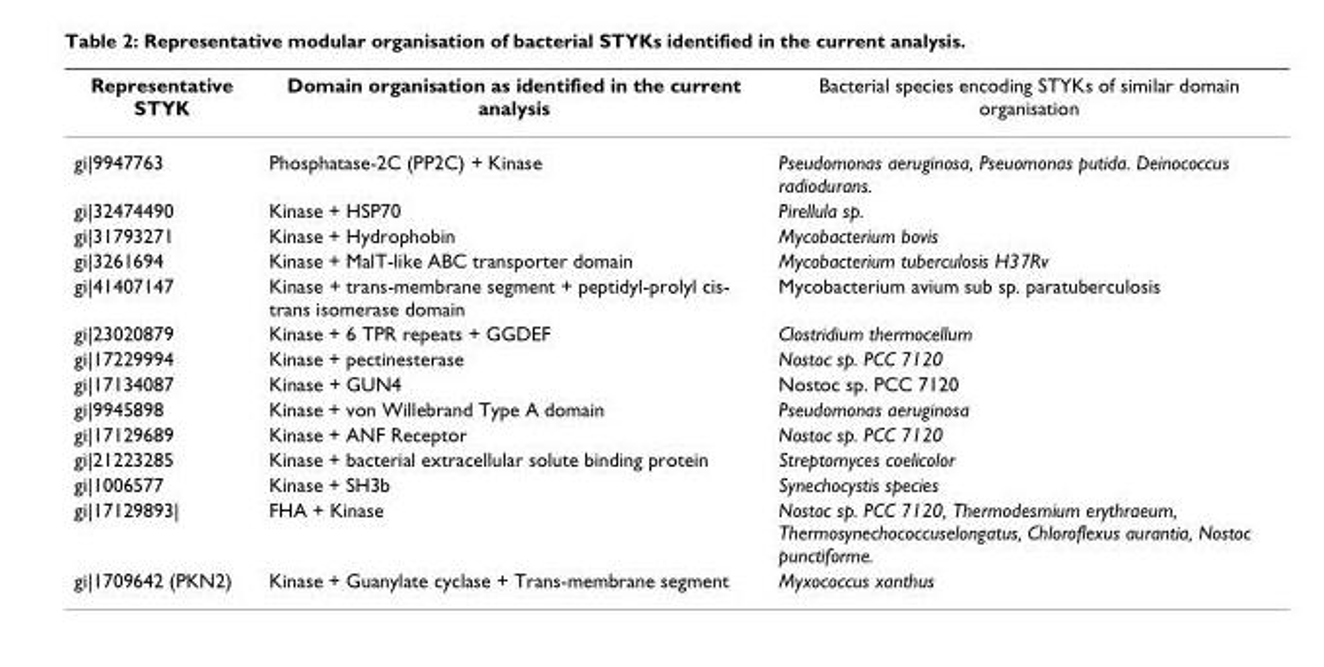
<table><thead><tr><td>Representative STYK</td><td>Domain organisation as identified in the current analysis</td><td>Bacterial species encoding STYKs of similar domain organisation</td></tr></thead><tbody><tr><td>gi|9947763</td><td>Phosphatase-2C (PP2C) + Kinase</td><td>Pseudomonas aeruginosa, Pseuomonas putida. Deinococcus radiodurans.</td></tr><tr><td>gi|32474490</td><td>Kinase + HSP70</td><td>Pirellula sp.</td></tr><tr><td>gi|31793271</td><td>Kinase + Hydrophobin</td><td>Mycobacterium bovis</td></tr><tr><td>gi|3261694</td><td>Kinase + MalT-like ABC transporter domain</td><td>Mycobacterium tuberculosis H37Rv</td></tr><tr><td>gi|41407147</td><td>Kinase + trans-membrane segment + peptidyl-prolyl cis- trans isomerase domain</td><td>Mycobacterium avium sub sp. paratuberculosis</td></tr><tr><td>gi|23020879</td><td>Kinase + 6 TPR repeats + GGDEF</td><td>Clostridium thermocellum</td></tr><tr><td>gi|17229994</td><td>Kinase + pectinesterase</td><td>Nostoc sp. PCC 7120</td></tr><tr><td>gi|17134087</td><td>Kinase + GUN4</td><td>Nostoc sp. PCC 7120</td></tr><tr><td>gi|9945898</td><td>Kinase + von Willebrand Type A domain</td><td>Pseudomonas aeruginosa</td></tr><tr><td>gi|17129689</td><td>Kinase + ANF Receptor</td><td>Nostoc sp. PCC 7120</td></tr><tr><td>gi|21223285</td><td>Kinase + bacterial extracellular solute binding protein</td><td>Streptomyces coelicolor</td></tr><tr><td>gi|1006577</td><td>Kinase + SH3b</td><td>Synechocystis species</td></tr><tr><td>gi|17129893|</td><td>FHA + Kinase</td><td>Nostoc sp. PCC 7120, Thermodesmium erythraeum, Thermosynechococcuselongatus, Chloroflexus aurantia, Nostoc punctiforme.</td></tr><tr><td>gi|1709642 (PKN2)</td><td>Kinase + Guanylate cyclase + Trans-membrane segment</td><td>Myxococcus xanthus</td></tr></tbody></table>